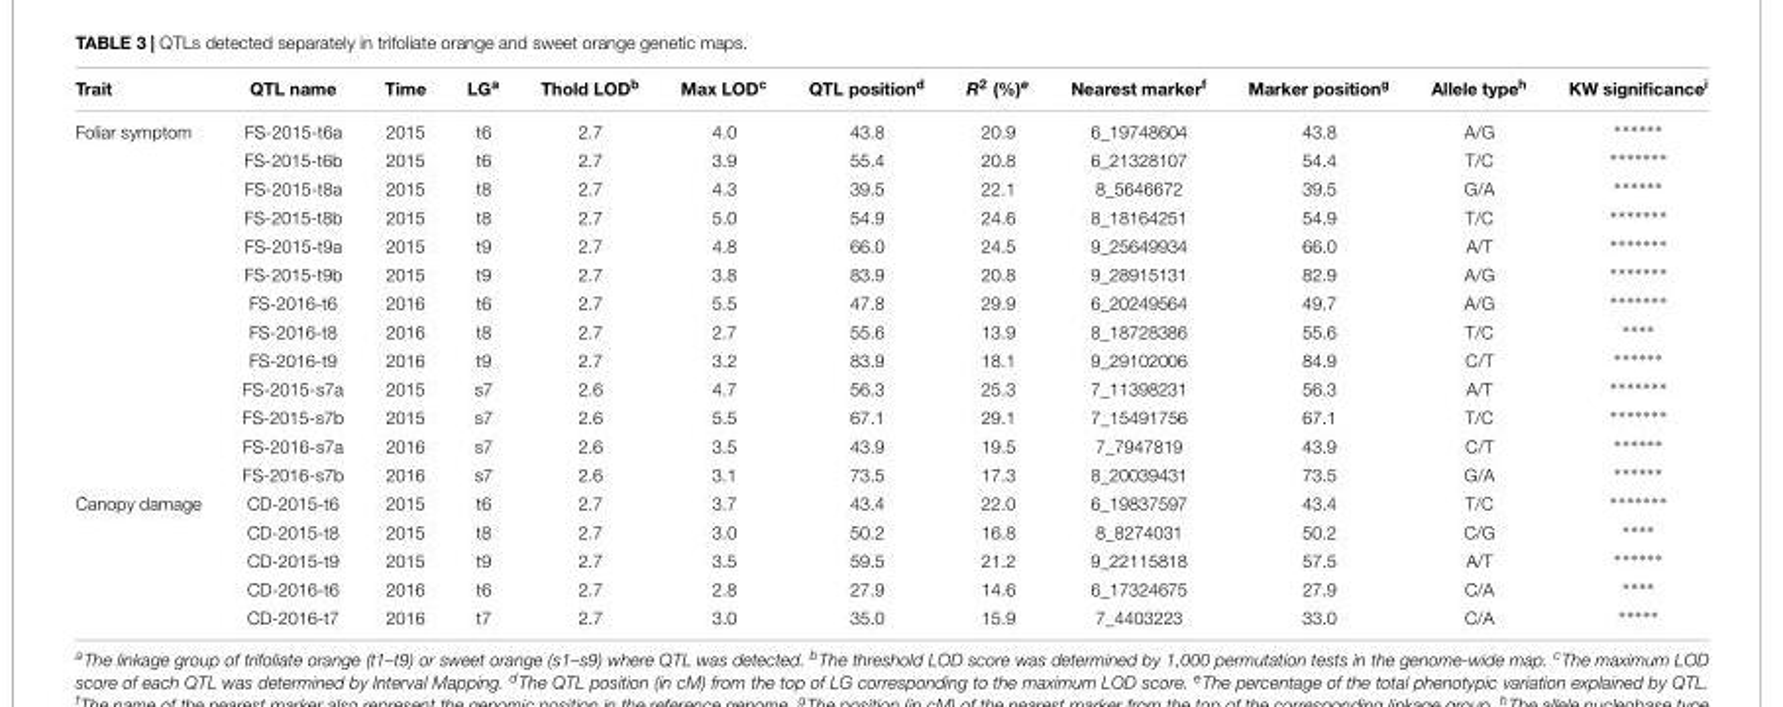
<table><thead><tr><td>Trait</td><td>QTL name</td><td>Time</td><td>LG<sup>a</sup></td><td>Thold LOD<sup>b</sup></td><td>Max LOD<sup>c</sup></td><td>QTL position<sup>d</sup></td><td>R<sup>2</sup> (%)<sup>e</sup></td><td>Nearest marker<sup>f</sup></td><td>Marker position<sup>g</sup></td><td>Allele type<sup>h</sup></td><td>KW significance<sup>i</sup></td></tr></thead><tbody><tr><td rowspan="13">Foliar symptom</td><td>FS-2015-t6a</td><td>2015</td><td>t6</td><td>2.7</td><td>4.0</td><td>43.8</td><td>20.9</td><td>6_19748604</td><td>43.8</td><td>A/G</td><td>∗∗∗∗∗∗</td></tr><tr><td>FS-2015-t6b</td><td>2015</td><td>t6</td><td>2.7</td><td>3.9</td><td>55.4</td><td>20.8</td><td>6_21328107</td><td>54.4</td><td>T/C</td><td>∗∗∗∗∗∗∗</td></tr><tr><td>FS-2015-t8a</td><td>2015</td><td>t8</td><td>2.7</td><td>4.3</td><td>39.5</td><td>22.1</td><td>8_5646672</td><td>39.5</td><td>G/A</td><td>∗∗∗∗∗∗</td></tr><tr><td>FS-2015-t8b</td><td>2015</td><td>t8</td><td>2.7</td><td>5.0</td><td>54.9</td><td>24.6</td><td>8_18164251</td><td>54.9</td><td>T/C</td><td>∗∗∗∗∗∗∗</td></tr><tr><td>FS-2015-t9a</td><td>2015</td><td>t9</td><td>2.7</td><td>4.8</td><td>66.0</td><td>24.5</td><td>9_25649934</td><td>66.0</td><td>A/T</td><td>∗∗∗∗∗∗∗</td></tr><tr><td>FS-2015-t9b</td><td>2015</td><td>t9</td><td>2.7</td><td>3.8</td><td>83.9</td><td>20.8</td><td>9_28915131</td><td>82.9</td><td>A/G</td><td>∗∗∗∗∗∗∗</td></tr><tr><td>FS-2016-t6</td><td>2016</td><td>t6</td><td>2.7</td><td>5.5</td><td>47.8</td><td>29.9</td><td>6_20249564</td><td>49.7</td><td>A/G</td><td>∗∗∗∗∗∗∗</td></tr><tr><td>FS-2016-t8</td><td>2016</td><td>t8</td><td>2.7</td><td>2.7</td><td>55.6</td><td>13.9</td><td>8_18728386</td><td>55.6</td><td>T/C</td><td>∗∗∗∗</td></tr><tr><td>FS-2016-t9</td><td>2016</td><td>t9</td><td>2.7</td><td>3.2</td><td>83.9</td><td>18.1</td><td>9_29102006</td><td>84.9</td><td>C/T</td><td>∗∗∗∗∗∗</td></tr><tr><td>FS-2015-s7a</td><td>2015</td><td>s7</td><td>2.6</td><td>4.7</td><td>56.3</td><td>25.3</td><td>7_11398231</td><td>56.3</td><td>A/T</td><td>∗∗∗∗∗∗∗</td></tr><tr><td>FS-2015-s7b</td><td>2015</td><td>s7</td><td>2.6</td><td>5.5</td><td>67.1</td><td>29.1</td><td>7_15491756</td><td>67.1</td><td>T/C</td><td>∗∗∗∗∗∗∗</td></tr><tr><td>FS-2016-s7a</td><td>2016</td><td>s7</td><td>2.6</td><td>3.5</td><td>43.9</td><td>19.5</td><td>7_7947819</td><td>43.9</td><td>C/T</td><td>∗∗∗∗∗∗</td></tr><tr><td>FS-2016-s7b</td><td>2016</td><td>s7</td><td>2.6</td><td>3.1</td><td>73.5</td><td>17.3</td><td>8_20039431</td><td>73.5</td><td>G/A</td><td>∗∗∗∗∗∗</td></tr><tr><td rowspan="5">Canopy damage</td><td>CD-2015-t6</td><td>2015</td><td>t6</td><td>2.7</td><td>3.7</td><td>43.4</td><td>22.0</td><td>6_19837597</td><td>43.4</td><td>T/C</td><td>∗∗∗∗∗∗∗</td></tr><tr><td>CD-2015-t8</td><td>2015</td><td>t8</td><td>2.7</td><td>3.0</td><td>50.2</td><td>16.8</td><td>8_8274031</td><td>50.2</td><td>C/G</td><td>∗∗∗∗</td></tr><tr><td>CD-2015-t9</td><td>2015</td><td>t9</td><td>2.7</td><td>3.5</td><td>59.5</td><td>21.2</td><td>9_22115818</td><td>57.5</td><td>A/T</td><td>∗∗∗∗∗∗</td></tr><tr><td>CD-2016-t6</td><td>2016</td><td>t6</td><td>2.7</td><td>2.8</td><td>27.9</td><td>14.6</td><td>6_17324675</td><td>27.9</td><td>C/A</td><td>∗∗∗∗</td></tr><tr><td>CD-2016-t7</td><td>2016</td><td>t7</td><td>2.7</td><td>3.0</td><td>35.0</td><td>15.9</td><td>7_4403223</td><td>33.0</td><td>C/A</td><td>∗∗∗∗∗</td></tr></tbody></table>